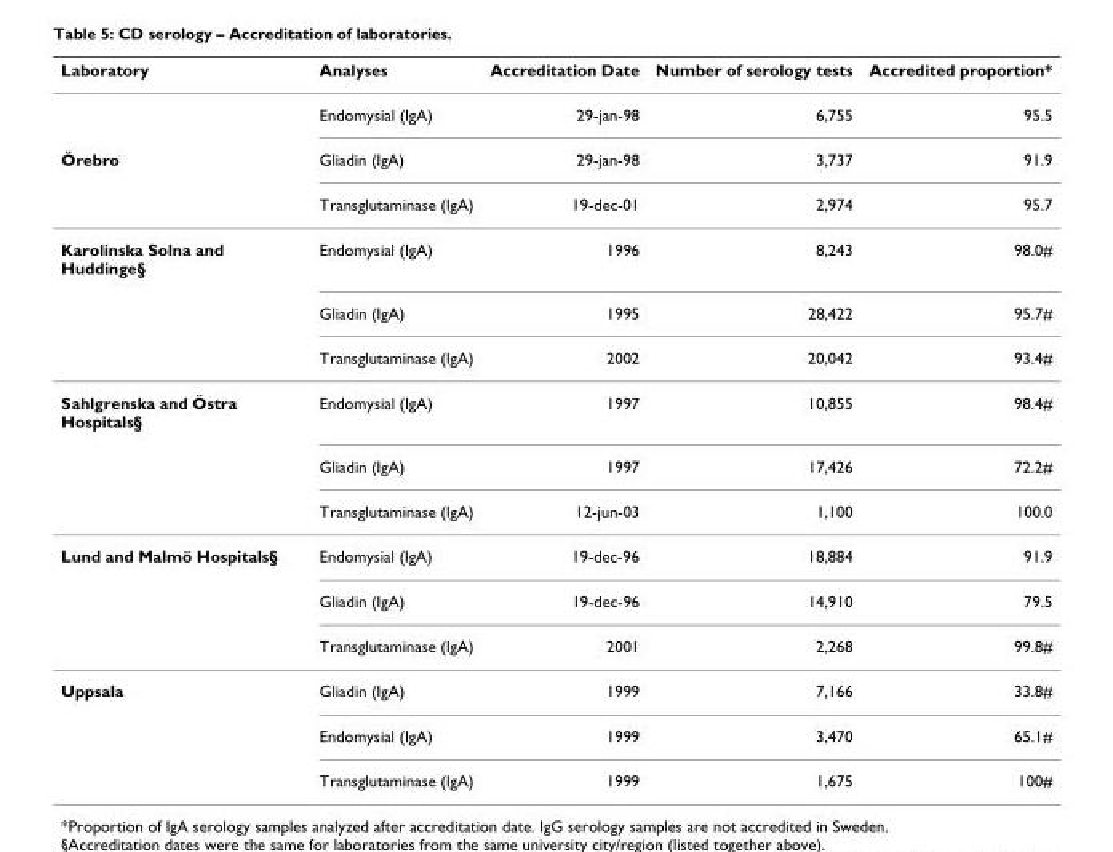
<table><thead><tr><td>Laboratory</td><td>Analyses</td><td>Accreditation Date</td><td>Number of serology tests</td><td>Accredited proportion*</td></tr></thead><tbody><tr><td></td><td>Endomysial (IgA)</td><td>29-jan-98</td><td>6,755</td><td>95.5</td></tr><tr><td rowspan="2">Örebro</td><td>Gliadin (IgA)</td><td>29-jan-98</td><td>3,737</td><td>91.9</td></tr><tr><td>Transglutaminase (IgA)</td><td>19-dec-01</td><td>2,974</td><td>95.7</td></tr><tr><td rowspan="3">Karolinska Solna and Huddinge§</td><td>Endomysial (IgA)</td><td>1996</td><td>8,243</td><td>98.0#</td></tr><tr><td>Gliadin (IgA)</td><td>1995</td><td>28,422</td><td>95.7#</td></tr><tr><td>Transglutaminase (IgA)</td><td>2002</td><td>20,042</td><td>93.4#</td></tr><tr><td rowspan="3">Sahlgrenska and Östra Hospitals§</td><td>Endomysial (IgA)</td><td>1997</td><td>10,855</td><td>98.4#</td></tr><tr><td>Gliadin (IgA)</td><td>1997</td><td>17,426</td><td>72.2#</td></tr><tr><td>Transglutaminase (IgA)</td><td>12-jun-03</td><td>1,100</td><td>100.0</td></tr><tr><td rowspan="3">Lund and Malmö Hospitals§</td><td>Endomysial (IgA)</td><td>19-dec-96</td><td>18,884</td><td>91.9</td></tr><tr><td>Gliadin (IgA)</td><td>19-dec-96</td><td>14,910</td><td>79.5</td></tr><tr><td>Transglutaminase (IgA)</td><td>2001</td><td>2,268</td><td>99.8#</td></tr><tr><td rowspan="3">Uppsala</td><td>Gliadin (IgA)</td><td>1999</td><td>7,166</td><td>33.8#</td></tr><tr><td>Endomysial (IgA)</td><td>1999</td><td>3,470</td><td>65.1#</td></tr><tr><td>Transglutaminase (IgA)</td><td>1999</td><td>1,675</td><td>100#</td></tr></tbody></table>